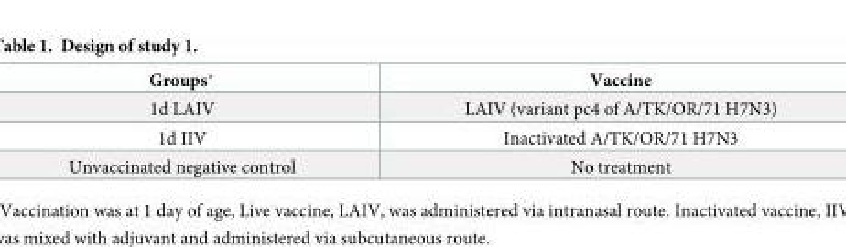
<table><thead><tr><td>Groups*</td><td>Vaccine</td></tr></thead><tbody><tr><td>1d LAIV</td><td>LAIV (variant pc4 of A/TK/OR/71 H7N3)</td></tr><tr><td>1d IIV</td><td>Inactivated A/TK/OR/71 H7N3</td></tr><tr><td>Unvaccinated negative control</td><td>No treatment</td></tr></tbody></table>